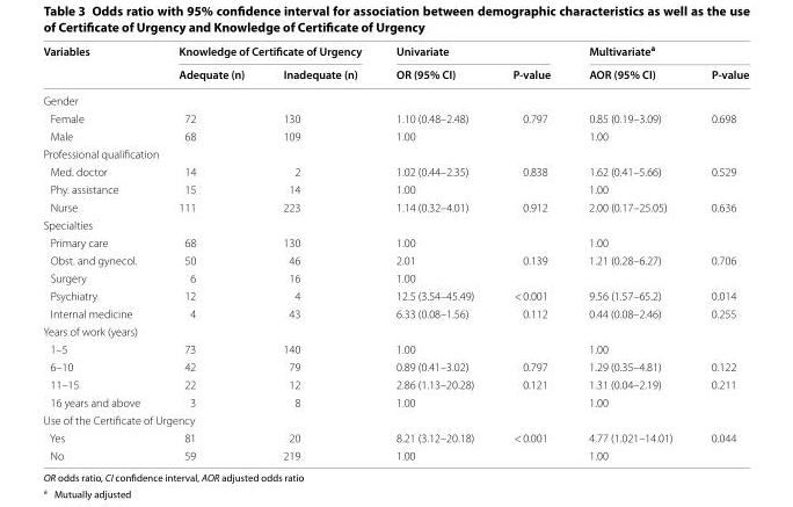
<table><thead><tr><td rowspan="2">Variables</td><td colspan="2">Knowledge of Certificate of Urgency</td><td colspan="2">Univariate</td><td colspan="2">Multivariate<sup>a</sup></td></tr><tr><td>Adequate (n)</td><td>Inadequate (n)</td><td>OR (95% CI)</td><td>P-value</td><td>AOR (95% CI)</td><td>P-value</td></tr></thead><tbody><tr><td colspan="7">Gender</td></tr><tr><td>Female</td><td>72</td><td>130</td><td>1.10 (0.48–2.48)</td><td>0.797</td><td>0.85 (0.19–3.09)</td><td>0.698</td></tr><tr><td>Male</td><td>68</td><td>109</td><td>1.00</td><td></td><td>1.00</td><td></td></tr><tr><td colspan="7">Professional qualification</td></tr><tr><td>Med. doctor</td><td>14</td><td>2</td><td>1.02 (0.44–2.35)</td><td>0.838</td><td>1.62 (0.41–5.66)</td><td>0.529</td></tr><tr><td>Phy. assistance</td><td>15</td><td>14</td><td>1.00</td><td></td><td>1.00</td><td></td></tr><tr><td>Nurse</td><td>111</td><td>223</td><td>1.14 (0.32–4.01)</td><td>0.912</td><td>2.00 (0.17–25.05)</td><td>0.636</td></tr><tr><td colspan="7">Specialties</td></tr><tr><td>Primary care</td><td>68</td><td>130</td><td>1.00</td><td></td><td>1.00</td><td></td></tr><tr><td>Obst. and gynecol.</td><td>50</td><td>46</td><td>2.01</td><td>0.139</td><td>1.21 (0.28–6.27)</td><td>0.706</td></tr><tr><td>Surgery</td><td>6</td><td>16</td><td>1.00</td><td></td><td></td><td></td></tr><tr><td>Psychiatry</td><td>12</td><td>4</td><td>12.5 (3.54–45.49)</td><td>&lt; 0.001</td><td>9.56 (1.57–65.2)</td><td>0.014</td></tr><tr><td>Internal medicine</td><td>4</td><td>43</td><td>6.33 (0.08–1.56)</td><td>0.112</td><td>0.44 (0.08–2.46)</td><td>0.255</td></tr><tr><td colspan="7">Years of work (years)</td></tr><tr><td>1–5</td><td>73</td><td>140</td><td>1.00</td><td></td><td>1.00</td><td></td></tr><tr><td>6–10</td><td>42</td><td>79</td><td>0.89 (0.41–3.02)</td><td>0.797</td><td>1.29 (0.35–4.81)</td><td>0.122</td></tr><tr><td>11–15</td><td>22</td><td>12</td><td>2.86 (1.13–20.28)</td><td>0.121</td><td>1.31 (0.04–2.19)</td><td>0.211</td></tr><tr><td>16 years and above</td><td>3</td><td>8</td><td>1.00</td><td></td><td>1.00</td><td></td></tr><tr><td colspan="7">Use of the Certificate of Urgency</td></tr><tr><td>Yes</td><td>81</td><td>20</td><td>8.21 (3.12–20.18)</td><td>&lt; 0.001</td><td>4.77 (1.021–14.01)</td><td>0.044</td></tr><tr><td>No</td><td>59</td><td>219</td><td>1.00</td><td></td><td>1.00</td><td></td></tr></tbody></table>